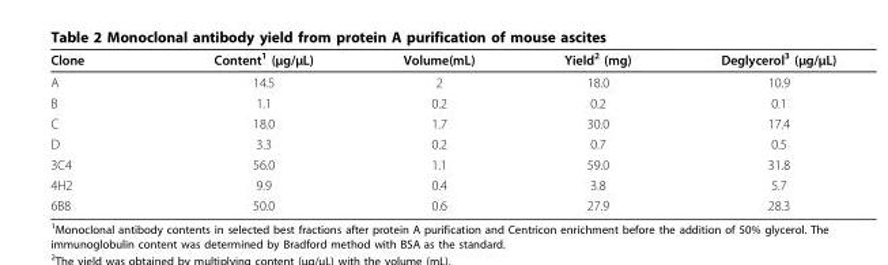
<table><thead><tr><td>Clone</td><td>Content<sup>1</sup> (μg/μL)</td><td>Volume(mL)</td><td>Yield<sup>2</sup> (mg)</td><td>Deglycerol<sup>3</sup> (μg/μL)</td></tr></thead><tbody><tr><td>A</td><td>14.5</td><td>2</td><td>18.0</td><td>10.9</td></tr><tr><td>B</td><td>1.1</td><td>0.2</td><td>0.2</td><td>0.1</td></tr><tr><td>C</td><td>18.0</td><td>1.7</td><td>30.0</td><td>17.4</td></tr><tr><td>D</td><td>3.3</td><td>0.2</td><td>0.7</td><td>0.5</td></tr><tr><td>3C4</td><td>56.0</td><td>1.1</td><td>59.0</td><td>31.8</td></tr><tr><td>4H2</td><td>9.9</td><td>0.4</td><td>3.8</td><td>5.7</td></tr><tr><td>6B8</td><td>50.0</td><td>0.6</td><td>27.9</td><td>28.3</td></tr></tbody></table>